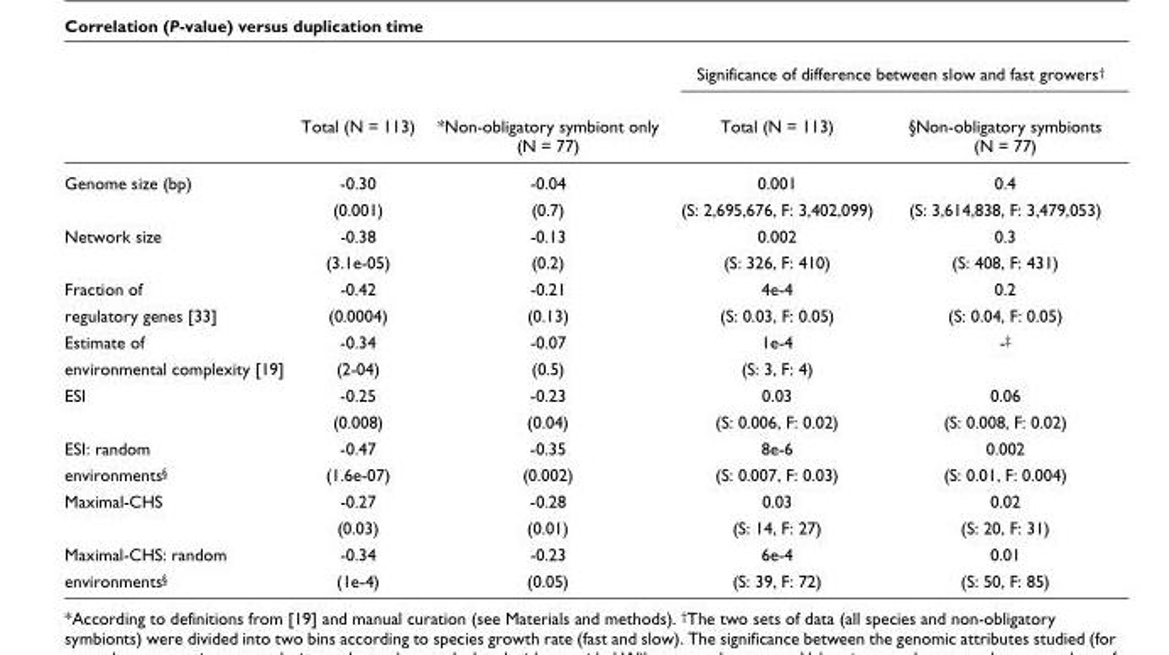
<table><thead><tr><td rowspan="2"></td><td rowspan="2">Total (N = 113)</td><td rowspan="2">*Non-obligatory symbiont only (N = 77)</td><td colspan="2">Significance of difference between slow and fast growers<sup>†</sup></td></tr><tr><td>Total (N = 113)</td><td>§Non-obligatory symbionts (N = 77)</td></tr></thead><tbody><tr><td rowspan="2">Genome size (bp)</td><td>-0.30</td><td>-0.04</td><td>0.001</td><td>0.4</td></tr><tr><td>(0.001)</td><td>(0.7)</td><td>(S: 2,695,676, F: 3,402,099)</td><td>(S: 3,614,838, F: 3,479,053)</td></tr><tr><td rowspan="2">Network size</td><td>-0.38</td><td>-0.13</td><td>0.002</td><td>0.3</td></tr><tr><td>(3.1e-05)</td><td>(0.2)</td><td>(S: 326, F: 410)</td><td>(S: 408, F: 431)</td></tr><tr><td>Fraction of</td><td>-0.42</td><td>-0.21</td><td>4e-4</td><td>0.2</td></tr><tr><td>regulatory genes [33]</td><td>(0.0004)</td><td>(0.13)</td><td>(S: 0.03, F: 0.05)</td><td>(S: 0.04, F: 0.05)</td></tr><tr><td>Estimate of</td><td>-0.34</td><td>-0.07</td><td>1e-4</td><td>-<sup>‡</sup></td></tr><tr><td>environmental complexity [19]</td><td>(2-04)</td><td>(0.5)</td><td>(S: 3, F: 4)</td><td></td></tr><tr><td rowspan="2">ESI</td><td>-0.25</td><td>-0.23</td><td>0.03</td><td>0.06</td></tr><tr><td>(0.008)</td><td>(0.04)</td><td>(S: 0.006, F: 0.02)</td><td>(S: 0.008, F: 0.02)</td></tr><tr><td>ESI: random</td><td>-0.47</td><td>-0.35</td><td>8e-6</td><td>0.002</td></tr><tr><td>environments<sup>§</sup></td><td>(1.6e-07)</td><td>(0.002)</td><td>(S: 0.007, F: 0.03)</td><td>(S: 0.01, F: 0.004)</td></tr><tr><td rowspan="2">Maximal-CHS</td><td>-0.27</td><td>-0.28</td><td>0.03</td><td>0.02</td></tr><tr><td>(0.03)</td><td>(0.01)</td><td>(S: 14, F: 27)</td><td>(S: 20, F: 31)</td></tr><tr><td>Maximal-CHS: random</td><td>-0.34</td><td>-0.23</td><td>6e-4</td><td>0.01</td></tr><tr><td>environments<sup>§</sup></td><td>(1e-4)</td><td>(0.05)</td><td>(S: 39, F: 72)</td><td>(S: 50, F: 85)</td></tr></tbody></table>